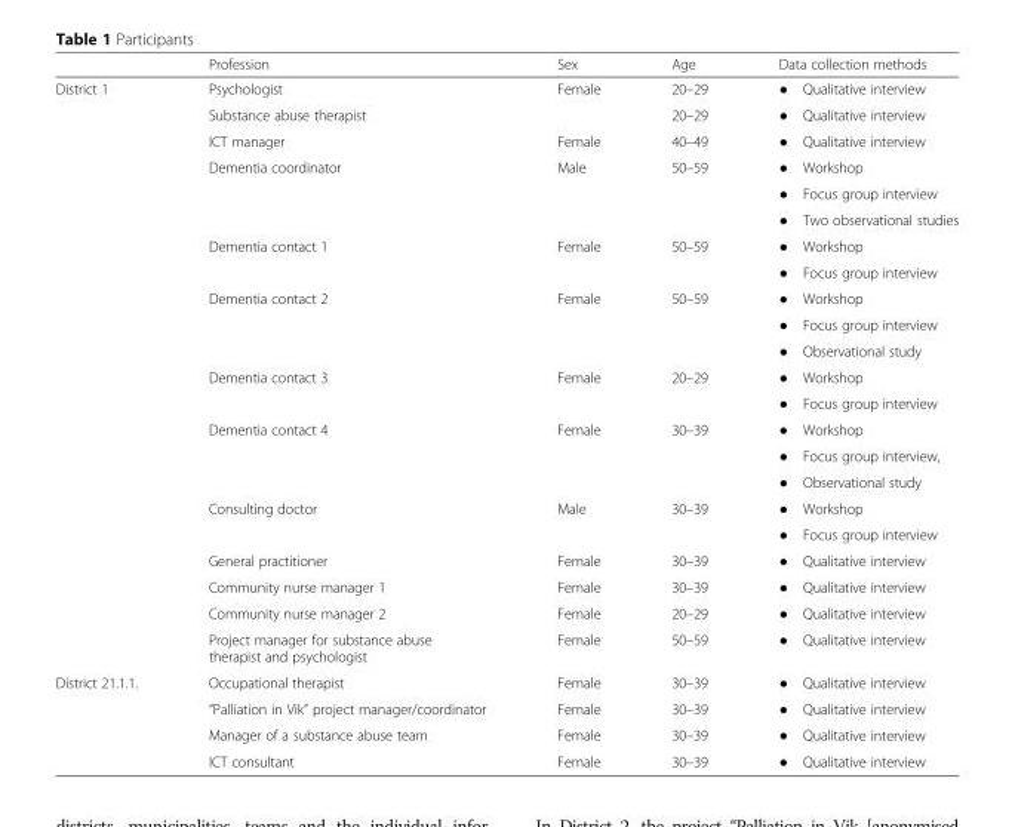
<table><thead><tr><td></td><td>Profession</td><td>Sex</td><td>Age</td><td>Data collection methods</td></tr></thead><tbody><tr><td rowspan="22">District 1</td><td>Psychologist</td><td>Female</td><td>20–29</td><td>● Qualitative interview</td></tr><tr><td>Substance abuse therapist</td><td></td><td>20–29</td><td>● Qualitative interview</td></tr><tr><td>ICT manager</td><td>Female</td><td>40–49</td><td>● Qualitative interview</td></tr><tr><td rowspan="3">Dementia coordinator</td><td rowspan="3">Male</td><td rowspan="3">50–59</td><td>● Workshop</td></tr><tr><td>● Focus group interview</td></tr><tr><td>● Two observational studies</td></tr><tr><td rowspan="2">Dementia contact 1</td><td rowspan="2">Female</td><td rowspan="2">50–59</td><td>● Workshop</td></tr><tr><td>● Focus group interview</td></tr><tr><td rowspan="3">Dementia contact 2</td><td rowspan="3">Female</td><td rowspan="3">50–59</td><td>● Workshop</td></tr><tr><td>● Focus group interview</td></tr><tr><td>● Observational study</td></tr><tr><td rowspan="2">Dementia contact 3</td><td rowspan="2">Female</td><td rowspan="2">20–29</td><td>● Workshop</td></tr><tr><td>● Focus group interview</td></tr><tr><td rowspan="3">Dementia contact 4</td><td rowspan="3">Female</td><td rowspan="3">30–39</td><td>● Workshop</td></tr><tr><td>● Focus group interview,</td></tr><tr><td>● Observational study</td></tr><tr><td rowspan="2">Consulting doctor</td><td rowspan="2">Male</td><td rowspan="2">30–39</td><td>● Workshop</td></tr><tr><td>● Focus group interview</td></tr><tr><td>General practitioner</td><td>Female</td><td>30–39</td><td>● Qualitative interview</td></tr><tr><td>Community nurse manager 1</td><td>Female</td><td>30–39</td><td>● Qualitative interview</td></tr><tr><td>Community nurse manager 2</td><td>Female</td><td>20–29</td><td>● Qualitative interview</td></tr><tr><td>Project manager for substance abuse therapist and psychologist</td><td>Female</td><td>50–59</td><td>● Qualitative interview</td></tr><tr><td rowspan="4">District 21.1.1.</td><td>Occupational therapist</td><td>Female</td><td>30–39</td><td>● Qualitative interview</td></tr><tr><td>“Palliation in Vik” project manager/coordinator</td><td>Female</td><td>30–39</td><td>● Qualitative interview</td></tr><tr><td>Manager of a substance abuse team</td><td>Female</td><td>30–39</td><td>● Qualitative interview</td></tr><tr><td>ICT consultant</td><td>Female</td><td>30–39</td><td>● Qualitative interview</td></tr></tbody></table>